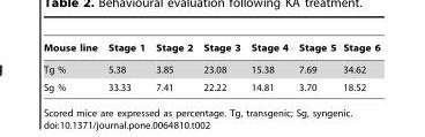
<table><thead><tr><td>Mouse line</td><td>Stage 1</td><td>Stage 2</td><td>Stage 3</td><td>Stage 4</td><td>Stage 5</td><td>Stage 6</td></tr></thead><tbody><tr><td>Tg %</td><td>5.38</td><td>3.85</td><td>23.08</td><td>15.38</td><td>7.69</td><td>34.62</td></tr><tr><td>Sg %</td><td>33.33</td><td>7.41</td><td>22.22</td><td>14.81</td><td>3.70</td><td>18.52</td></tr></tbody></table>